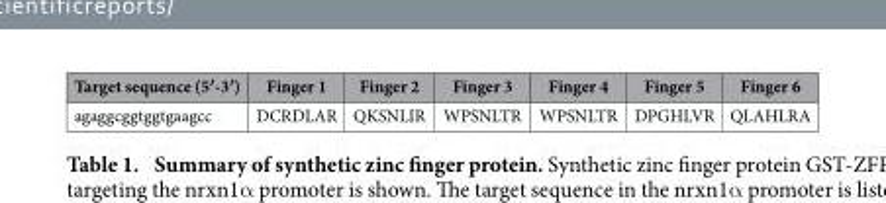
<table><thead><tr><td>Target sequence (5′-3′)</td><td>Finger 1</td><td>Finger 2</td><td>Finger 3</td><td>Finger 4</td><td>Finger 5</td><td>Finger 6</td></tr></thead><tbody><tr><td>agaggcggtggtgaagcc</td><td>DCRDLAR</td><td>QKSNLIR</td><td>WPSNLTR</td><td>WPSNLTR</td><td>DPGHLVR</td><td>QLAHLRA</td></tr></tbody></table>